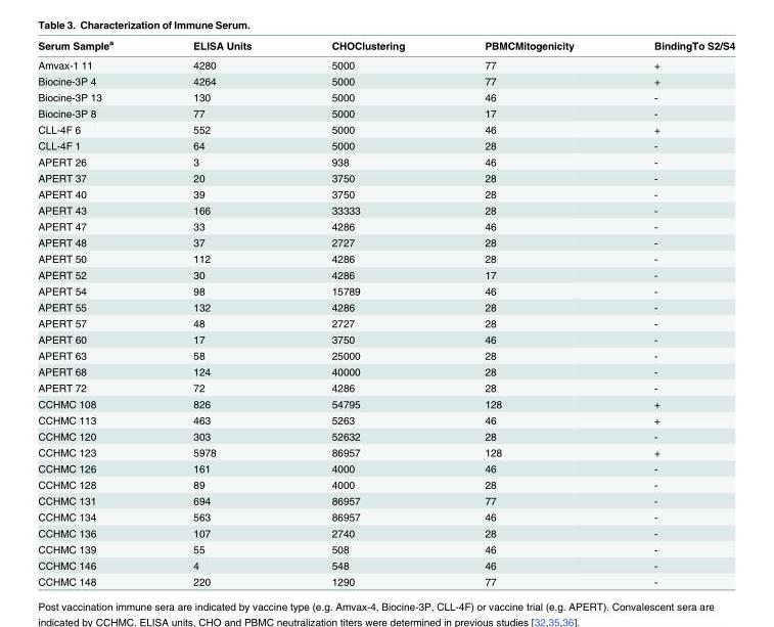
<table><thead><tr><td>Serum Sample<sup>a</sup></td><td>ELISA Units</td><td>CHOClustering</td><td>PBMCMitogenicity</td><td>BindingTo S2/S4</td></tr></thead><tbody><tr><td>Amvax-1 11</td><td>4280</td><td>5000</td><td>77</td><td>+</td></tr><tr><td>Biocine-3P 4</td><td>4264</td><td>5000</td><td>77</td><td>+</td></tr><tr><td>Biocine-3P 13</td><td>130</td><td>5000</td><td>46</td><td>-</td></tr><tr><td>Biocine-3P 8</td><td>77</td><td>5000</td><td>17</td><td>-</td></tr><tr><td>CLL-4F 6</td><td>552</td><td>5000</td><td>46</td><td>+</td></tr><tr><td>CLL-4F 1</td><td>64</td><td>5000</td><td>28</td><td>-</td></tr><tr><td>APERT 26</td><td>3</td><td>938</td><td>46</td><td>-</td></tr><tr><td>APERT 37</td><td>20</td><td>3750</td><td>28</td><td>-</td></tr><tr><td>APERT 40</td><td>39</td><td>3750</td><td>28</td><td>-</td></tr><tr><td>APERT 43</td><td>166</td><td>33333</td><td>28</td><td>-</td></tr><tr><td>APERT 47</td><td>33</td><td>4286</td><td>46</td><td>-</td></tr><tr><td>APERT 48</td><td>37</td><td>2727</td><td>28</td><td>-</td></tr><tr><td>APERT 50</td><td>112</td><td>4286</td><td>28</td><td>-</td></tr><tr><td>APERT 52</td><td>30</td><td>4286</td><td>17</td><td>-</td></tr><tr><td>APERT 54</td><td>98</td><td>15789</td><td>46</td><td>-</td></tr><tr><td>APERT 55</td><td>132</td><td>4286</td><td>28</td><td>-</td></tr><tr><td>APERT 57</td><td>48</td><td>2727</td><td>28</td><td>-</td></tr><tr><td>APERT 60</td><td>17</td><td>3750</td><td>46</td><td>-</td></tr><tr><td>APERT 63</td><td>58</td><td>25000</td><td>28</td><td>-</td></tr><tr><td>APERT 68</td><td>124</td><td>40000</td><td>28</td><td>-</td></tr><tr><td>APERT 72</td><td>72</td><td>4286</td><td>28</td><td>-</td></tr><tr><td>CCHMC 108</td><td>826</td><td>54795</td><td>128</td><td>+</td></tr><tr><td>CCHMC 113</td><td>463</td><td>5263</td><td>46</td><td>+</td></tr><tr><td>CCHMC 120</td><td>303</td><td>52632</td><td>28</td><td>-</td></tr><tr><td>CCHMC 123</td><td>5978</td><td>86957</td><td>128</td><td>+</td></tr><tr><td>CCHMC 126</td><td>161</td><td>4000</td><td>46</td><td>-</td></tr><tr><td>CCHMC 128</td><td>89</td><td>4000</td><td>28</td><td>-</td></tr><tr><td>CCHMC 131</td><td>694</td><td>86957</td><td>77</td><td>-</td></tr><tr><td>CCHMC 134</td><td>563</td><td>86957</td><td>46</td><td>-</td></tr><tr><td>CCHMC 136</td><td>107</td><td>2740</td><td>28</td><td>-</td></tr><tr><td>CCHMC 139</td><td>55</td><td>508</td><td>46</td><td>-</td></tr><tr><td>CCHMC 146</td><td>4</td><td>548</td><td>46</td><td>-</td></tr><tr><td>CCHMC 148</td><td>220</td><td>1290</td><td>77</td><td>-</td></tr></tbody></table>